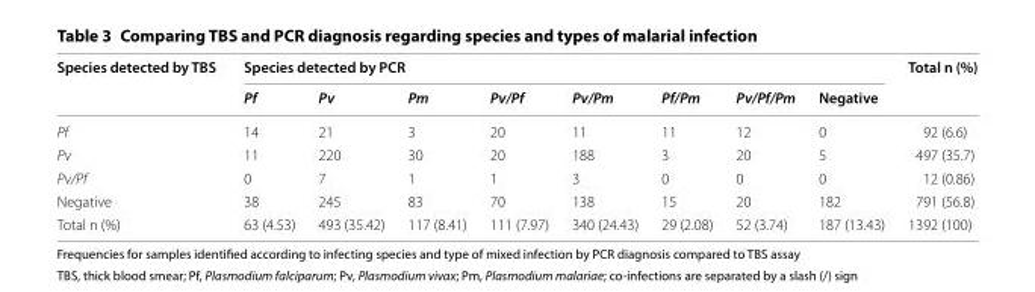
<table><thead><tr><td rowspan="2">Species detected by TBS</td><td colspan="8">Species detected by PCR</td><td rowspan="2">Total n (%)</td></tr><tr><td>Pf</td><td>Pv</td><td>Pm</td><td>Pv/Pf</td><td>Pv/Pm</td><td>Pf/Pm</td><td>Pv/Pf/Pm</td><td>Negative</td></tr></thead><tbody><tr><td>Pf</td><td>14</td><td>21</td><td>3</td><td>20</td><td>11</td><td>11</td><td>12</td><td>0</td><td>92 (6.6)</td></tr><tr><td>Pv</td><td>11</td><td>220</td><td>30</td><td>20</td><td>188</td><td>3</td><td>20</td><td>5</td><td>497 (35.7)</td></tr><tr><td>Pv/Pf</td><td>0</td><td>7</td><td>1</td><td>1</td><td>3</td><td>0</td><td>0</td><td>0</td><td>12 (0.86)</td></tr><tr><td>Negative</td><td>38</td><td>245</td><td>83</td><td>70</td><td>138</td><td>15</td><td>20</td><td>182</td><td>791 (56.8)</td></tr><tr><td>Total n (%)</td><td>63 (4.53)</td><td>493 (35.42)</td><td>117 (8.41)</td><td>111 (7.97)</td><td>340 (24.43)</td><td>29 (2.08)</td><td>52 (3.74)</td><td>187 (13.43)</td><td>1392 (100)</td></tr></tbody></table>